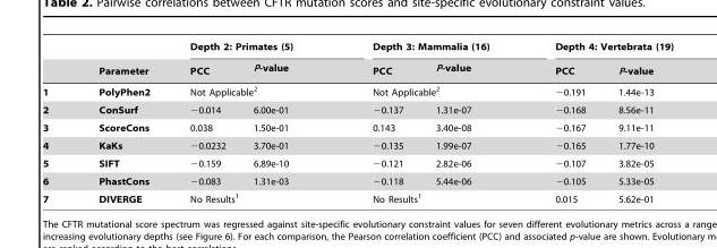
<table><thead><tr><td rowspan="2"></td><td rowspan="2">Parameter</td><td colspan="2">Depth 2: Primates (5)</td><td colspan="2">Depth 3: Mammalia (16)</td><td colspan="2">Depth 4: Vertebrata (19)</td></tr><tr><td>PCC</td><td>P-value</td><td>PCC</td><td>P-value</td><td>PCC</td><td>P-value</td></tr></thead><tbody><tr><td>1</td><td>PolyPhen2</td><td colspan="2">Not Applicable<sup>2</sup></td><td colspan="2">Not Applicable<sup>2</sup></td><td>−0.191</td><td>1.44e-13</td></tr><tr><td>2</td><td>ConSurf</td><td>−0.014</td><td>6.00e-01</td><td>−0.137</td><td>1.31e-07</td><td>−0.168</td><td>8.56e-11</td></tr><tr><td>3</td><td>ScoreCons</td><td>0.038</td><td>1.50e-01</td><td>0.143</td><td>3.40e-08</td><td>−0.167</td><td>9.11e-11</td></tr><tr><td>4</td><td>KaKs</td><td>−0.0232</td><td>3.70e-01</td><td>−0.135</td><td>1.99e-07</td><td>−0.165</td><td>1.77e-10</td></tr><tr><td>5</td><td>SIFT</td><td>−0.159</td><td>6.89e-10</td><td>−0.121</td><td>2.82e-06</td><td>−0.107</td><td>3.82e-05</td></tr><tr><td>6</td><td>PhastCons</td><td>−0.083</td><td>1.31e-03</td><td>−0.118</td><td>5.44e-06</td><td>−0.105</td><td>5.33e-05</td></tr><tr><td>7</td><td>DIVERGE</td><td colspan="2">No Results<sup>1</sup></td><td colspan="2">No Results<sup>1</sup></td><td>0.015</td><td>5.62e-01</td></tr></tbody></table>